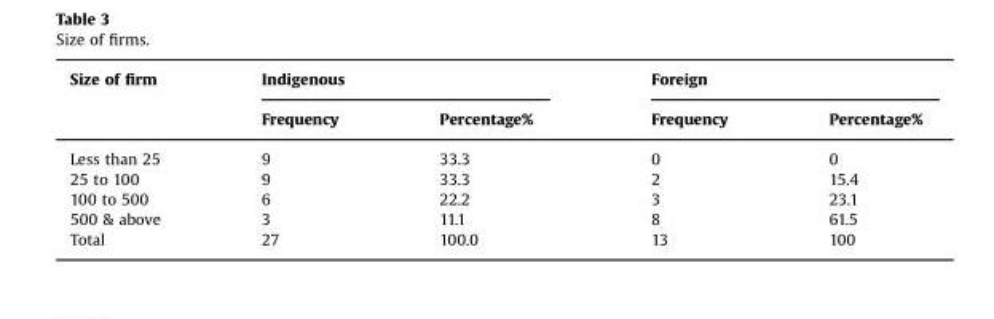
<table><thead><tr><td rowspan="2">Size of firm</td><td colspan="2">Indigenous</td><td colspan="2">Foreign</td></tr><tr><td>Frequency</td><td>Percentage%</td><td>Frequency</td><td>Percentage%</td></tr></thead><tbody><tr><td>Less than 25</td><td>9</td><td>33.3</td><td>0</td><td>0</td></tr><tr><td>25 to 100</td><td>9</td><td>33.3</td><td>2</td><td>15.4</td></tr><tr><td>100 to 500</td><td>6</td><td>22.2</td><td>3</td><td>23.1</td></tr><tr><td>500 &amp; above</td><td>3</td><td>11.1</td><td>8</td><td>61.5</td></tr><tr><td>Total</td><td>27</td><td>100.0</td><td>13</td><td>100</td></tr></tbody></table>